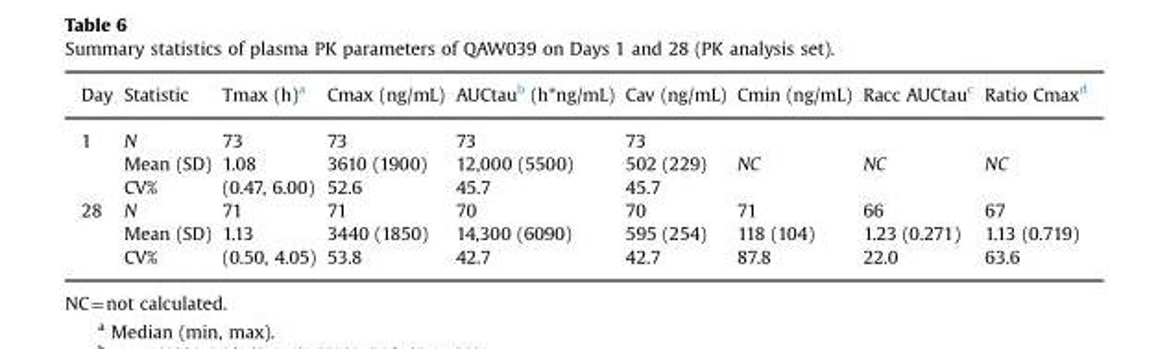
<table><thead><tr><td>Day</td><td>Statistic</td><td>Tmax (h)<sup>a</sup></td><td>Cmax (ng/mL)</td><td>AUCtau<sup>b</sup> (h*ng/mL)</td><td>Cav (ng/mL)</td><td>Cmin (ng/mL)</td><td>Racc AUCtau<sup>c</sup></td><td>Ratio Cmax<sup>d</sup></td></tr></thead><tbody><tr><td rowspan="3">1</td><td>N</td><td>73</td><td>73</td><td>73</td><td>73</td><td></td><td></td><td></td></tr><tr><td>Mean (SD)</td><td>1.08</td><td>3610 (1900)</td><td>12,000 (5500)</td><td>502 (229)</td><td>NC</td><td>NC</td><td>NC</td></tr><tr><td>CV%</td><td>(0.47, 6.00)</td><td>52.6</td><td>45.7</td><td>45.7</td><td></td><td></td><td></td></tr><tr><td rowspan="3">28</td><td>N</td><td>71</td><td>71</td><td>70</td><td>70</td><td>71</td><td>66</td><td>67</td></tr><tr><td>Mean (SD)</td><td>1.13</td><td>3440 (1850)</td><td>14,300 (6090)</td><td>595 (254)</td><td>118 (104)</td><td>1.23 (0.271)</td><td>1.13 (0.719)</td></tr><tr><td>CV%</td><td>(0.50, 4.05)</td><td>53.8</td><td>42.7</td><td>42.7</td><td>87.8</td><td>22.0</td><td>63.6</td></tr></tbody></table>